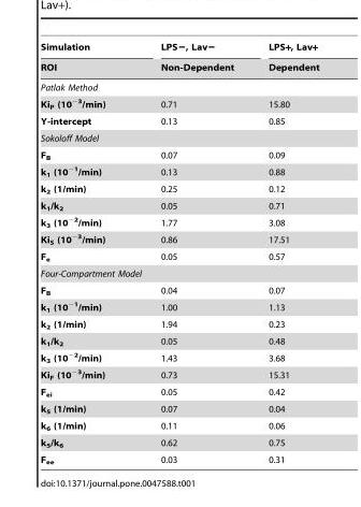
<table><thead><tr><td rowspan="2">Simulation ROI</td><td rowspan="2">LPS−, Lav− Non-Dependent</td><td rowspan="2">LPS+, Lav+ Dependent</td></tr><tr></tr></thead><tbody><tr><td colspan="3">Patlak Method</td></tr><tr><td>Ki<sub>P</sub> (10<sup>−3</sup>/min)</td><td>0.71</td><td>15.80</td></tr><tr><td>Y-intercept</td><td>0.13</td><td>0.85</td></tr><tr><td colspan="3">Sokoloff Model</td></tr><tr><td>F<sub>B</sub></td><td>0.07</td><td>0.09</td></tr><tr><td>k<sub>1</sub> (10<sup>−1</sup>/min)</td><td>0.13</td><td>0.88</td></tr><tr><td>k<sub>2</sub> (1/min)</td><td>0.25</td><td>0.12</td></tr><tr><td>k<sub>1</sub>/k<sub>2</sub></td><td>0.05</td><td>0.71</td></tr><tr><td>k<sub>3</sub> (10<sup>−2</sup>/min)</td><td>1.77</td><td>3.08</td></tr><tr><td>Ki<sub>S</sub> (10<sup>−3</sup>/min)</td><td>0.86</td><td>17.51</td></tr><tr><td>F<sub>e</sub></td><td>0.05</td><td>0.57</td></tr><tr><td colspan="3">Four-Compartment Model</td></tr><tr><td>F<sub>B</sub></td><td>0.04</td><td>0.07</td></tr><tr><td>k<sub>1</sub> (10<sup>−1</sup>/min)</td><td>1.00</td><td>1.13</td></tr><tr><td>k<sub>2</sub> (1/min)</td><td>1.94</td><td>0.23</td></tr><tr><td>k<sub>1</sub>/k<sub>2</sub></td><td>0.05</td><td>0.48</td></tr><tr><td>k<sub>3</sub> (10<sup>−2</sup>/min)</td><td>1.43</td><td>3.68</td></tr><tr><td>Ki<sub>F</sub> (10<sup>−3</sup>/min)</td><td>0.73</td><td>15.31</td></tr><tr><td>F<sub>ei</sub></td><td>0.05</td><td>0.42</td></tr><tr><td>k<sub>5</sub> (1/min)</td><td>0.07</td><td>0.04</td></tr><tr><td>k<sub>6</sub> (1/min)</td><td>0.11</td><td>0.06</td></tr><tr><td>k<sub>5</sub>/k<sub>6</sub></td><td>0.62</td><td>0.75</td></tr><tr><td>F<sub>ee</sub></td><td>0.03</td><td>0.31</td></tr></tbody></table>